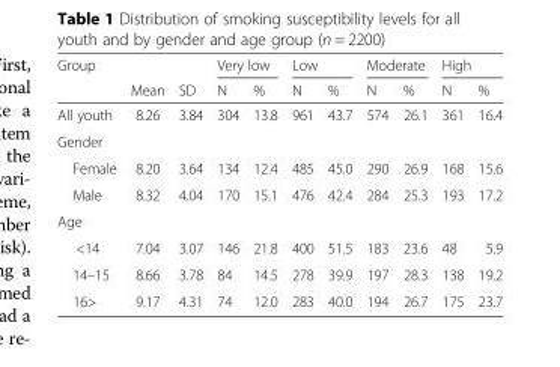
<table><thead><tr><td rowspan="2">Group</td><td rowspan="2">Mean</td><td rowspan="2">SD</td><td colspan="2">Very low</td><td colspan="2">Low</td><td colspan="2">Moderate</td><td colspan="2">High</td></tr><tr><td>N</td><td>%</td><td>N</td><td>%</td><td>N</td><td>%</td><td>N</td><td>%</td></tr></thead><tbody><tr><td>All youth</td><td>8.26</td><td>3.84</td><td>304</td><td>13.8</td><td>961</td><td>43.7</td><td>574</td><td>26.1</td><td>361</td><td>16.4</td></tr><tr><td colspan="11">Gender</td></tr><tr><td>Female</td><td>8.20</td><td>3.64</td><td>134</td><td>12.4</td><td>485</td><td>45.0</td><td>290</td><td>26.9</td><td>168</td><td>15.6</td></tr><tr><td>Male</td><td>8.32</td><td>4.04</td><td>170</td><td>15.1</td><td>476</td><td>42.4</td><td>284</td><td>25.3</td><td>193</td><td>17.2</td></tr><tr><td colspan="11">Age</td></tr><tr><td>&lt;14</td><td>7.04</td><td>3.07</td><td>146</td><td>21.8</td><td>400</td><td>51.5</td><td>183</td><td>23.6</td><td>48</td><td>5.9</td></tr><tr><td>14–15</td><td>8.66</td><td>3.78</td><td>84</td><td>14.5</td><td>278</td><td>39.9</td><td>197</td><td>28.3</td><td>138</td><td>19.2</td></tr><tr><td>16&gt;</td><td>9.17</td><td>4.31</td><td>74</td><td>12.0</td><td>283</td><td>40.0</td><td>194</td><td>26.7</td><td>175</td><td>23.7</td></tr></tbody></table>